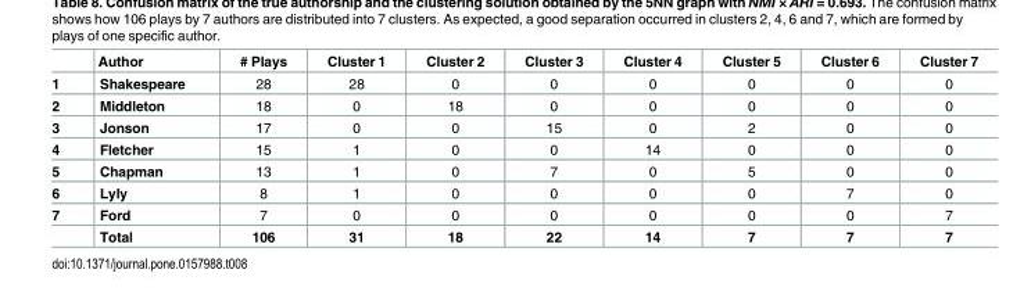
<table><thead><tr><td></td><td>Author</td><td># Plays</td><td>Cluster 1</td><td>Cluster 2</td><td>Cluster 3</td><td>Cluster 4</td><td>Cluster 5</td><td>Cluster 6</td><td>Cluster 7</td></tr></thead><tbody><tr><td>1</td><td>Shakespeare</td><td>28</td><td>28</td><td>0</td><td>0</td><td>0</td><td>0</td><td>0</td><td>0</td></tr><tr><td>2</td><td>Middleton</td><td>18</td><td>0</td><td>18</td><td>0</td><td>0</td><td>0</td><td>0</td><td>0</td></tr><tr><td>3</td><td>Jonson</td><td>17</td><td>0</td><td>0</td><td>15</td><td>0</td><td>2</td><td>0</td><td>0</td></tr><tr><td>4</td><td>Fletcher</td><td>15</td><td>1</td><td>0</td><td>0</td><td>14</td><td>0</td><td>0</td><td>0</td></tr><tr><td>5</td><td>Chapman</td><td>13</td><td>1</td><td>0</td><td>7</td><td>0</td><td>5</td><td>0</td><td>0</td></tr><tr><td>6</td><td>Lyly</td><td>8</td><td>1</td><td>0</td><td>0</td><td>0</td><td>0</td><td>7</td><td>0</td></tr><tr><td rowspan="2">7</td><td>Ford</td><td>7</td><td>0</td><td>0</td><td>0</td><td>0</td><td>0</td><td>0</td><td>7</td></tr><tr><td>Total</td><td>106</td><td>31</td><td>18</td><td>22</td><td>14</td><td>7</td><td>7</td><td>7</td></tr></tbody></table>